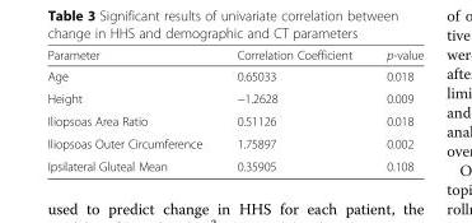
<table><thead><tr><td>Parameter</td><td>Correlation Coefficient</td><td>p-value</td></tr></thead><tbody><tr><td>Age</td><td>0.65033</td><td>0.018</td></tr><tr><td>Height</td><td>−1.2628</td><td>0.009</td></tr><tr><td>Iliopsoas Area Ratio</td><td>0.51126</td><td>0.018</td></tr><tr><td>Iliopsoas Outer Circumference</td><td>1.75897</td><td>0.002</td></tr><tr><td>Ipsilateral Gluteal Mean</td><td>0.35905</td><td>0.108</td></tr></tbody></table>